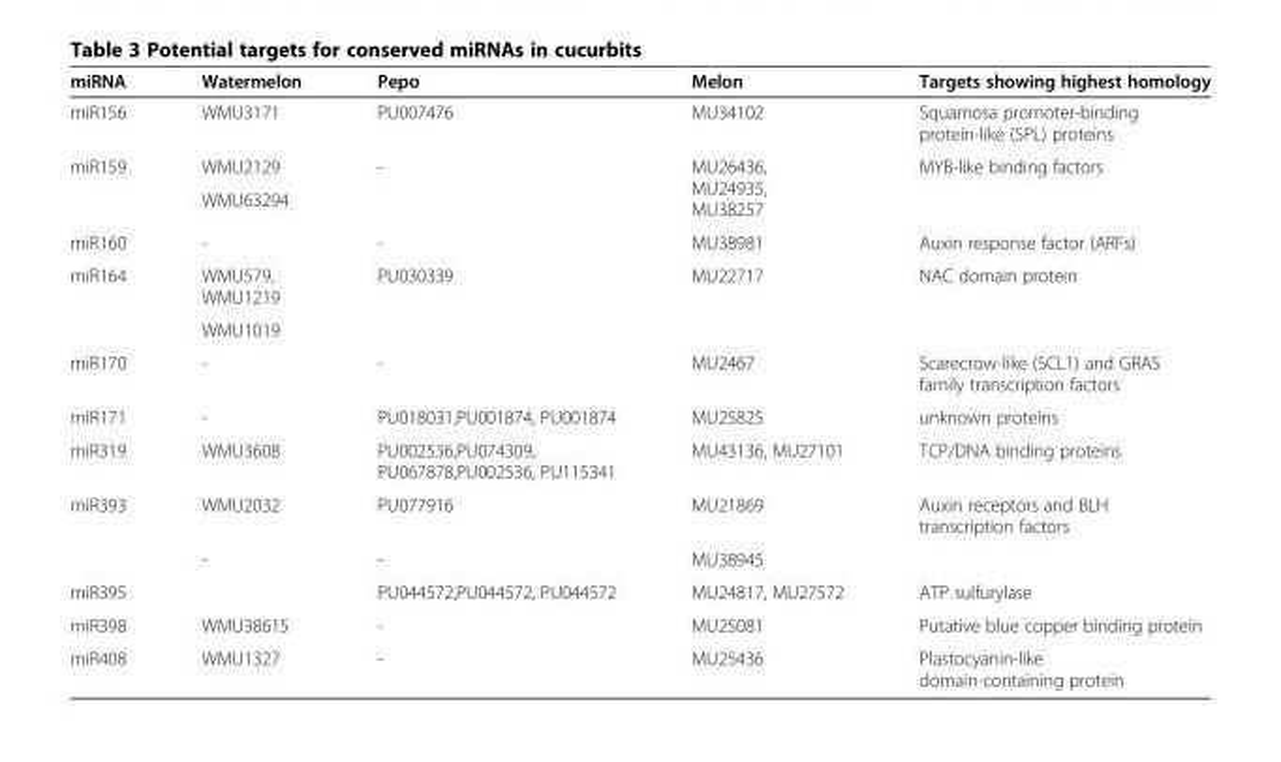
<table><thead><tr><td>miRNA</td><td>Watermelon</td><td>Pepo</td><td>Melon</td><td>Targets showing highest homology</td></tr></thead><tbody><tr><td>miR156</td><td>WMU3171</td><td>PU007476</td><td>MU34102</td><td>Squamosa promoter-binding protein-like (SPL) proteins</td></tr><tr><td rowspan="2">miR159</td><td>WMU2129</td><td rowspan="2">-</td><td rowspan="2">MU26436, MU24935, MU38257</td><td rowspan="2">MYB-like binding factors</td></tr><tr><td>WMU63294</td></tr><tr><td>miR160</td><td>-</td><td>-</td><td>MU38981</td><td>Auxin response factor (ARFs)</td></tr><tr><td rowspan="2">miR164</td><td>WMU579, WMU1219</td><td rowspan="2">PU030339</td><td rowspan="2">MU22717</td><td rowspan="2">NAC domain protein</td></tr><tr><td>WMU1019</td></tr><tr><td>miR170</td><td>-</td><td>-</td><td>MU2467</td><td>Scarecrow-like (SCL1) and GRAS family transcription factors</td></tr><tr><td>miR171</td><td>-</td><td>PU018031,PU001874, PU001874</td><td>MU25825</td><td>unknown proteins</td></tr><tr><td>miR319</td><td>WMU3608</td><td>PU002536,PU074309, PU067878,PU002536, PU115341</td><td>MU43136, MU27101</td><td>TCP/DNA binding proteins</td></tr><tr><td rowspan="2">miR393</td><td>WMU2032</td><td>PU077916</td><td>MU21869</td><td>Auxin receptors and BLH transcription factors</td></tr><tr><td>-</td><td>-</td><td>MU38945</td><td></td></tr><tr><td>miR395</td><td></td><td>PU044572,PU044572, PU044572</td><td>MU24817, MU27572</td><td>ATP sulfurylase</td></tr><tr><td>miR398</td><td>WMU38615</td><td>-</td><td>MU25081</td><td>Putative blue copper binding protein</td></tr><tr><td>miR408</td><td>WMU1327</td><td>-</td><td>MU25436</td><td>Plastocyanin-like domain-containing protein</td></tr></tbody></table>